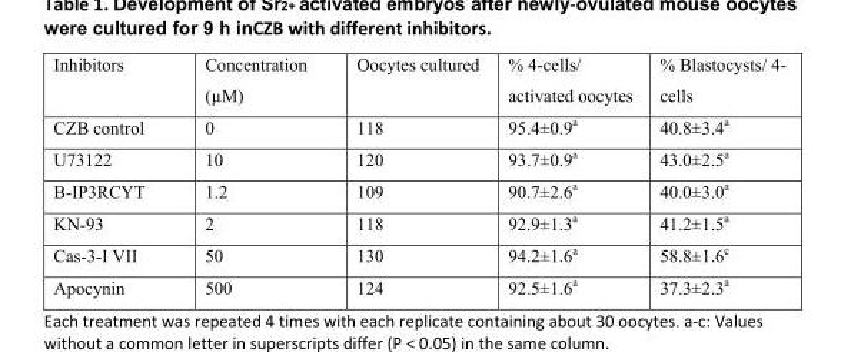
<table><thead><tr><td>Inhibitors</td><td>Concentration (µM)</td><td>Oocytes cultured</td><td>% 4-cells/ activated oocytes</td><td>% Blastocysts/ 4- cells</td></tr></thead><tbody><tr><td>CZB control</td><td>0</td><td>118</td><td>95.4±0.9<sup>a</sup></td><td>40.8±3.4<sup>a</sup></td></tr><tr><td>U73122</td><td>10</td><td>120</td><td>93.7±0.9<sup>a</sup></td><td>43.0±2.5<sup>a</sup></td></tr><tr><td>B-IP3RCYT</td><td>1.2</td><td>109</td><td>90.7±2.6<sup>a</sup></td><td>40.0±3.0<sup>a</sup></td></tr><tr><td>KN-93</td><td>2</td><td>118</td><td>92.9±1.3<sup>a</sup></td><td>41.2±1.5<sup>a</sup></td></tr><tr><td>Cas-3-I VII</td><td>50</td><td>130</td><td>94.2±1.6<sup>a</sup></td><td>58.8±1.6<sup>c</sup></td></tr><tr><td>Apocynin</td><td>500</td><td>124</td><td>92.5±1.6<sup>a</sup></td><td>37.3±2.3<sup>a</sup></td></tr></tbody></table>